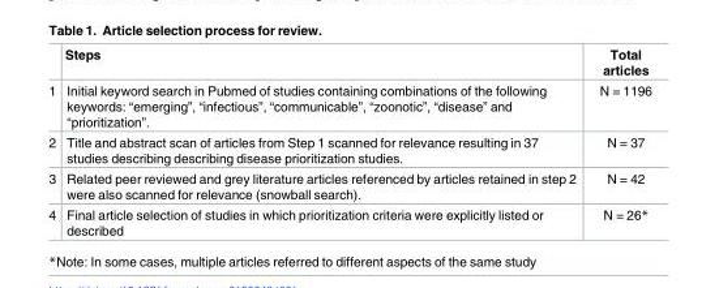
<table><thead><tr><td></td><td>Steps</td><td>Total articles</td></tr></thead><tbody><tr><td>1</td><td>Initial keyword search in Pubmed of studies containing combinations of the following keywords: “emerging”, “infectious”, “communicable”, “zoonotic”, “disease” and “prioritization”.</td><td>N = 1196</td></tr><tr><td>2</td><td>Title and abstract scan of articles from Step 1 scanned for relevance resulting in 37 studies describing describing disease prioritization studies.</td><td>N = 37</td></tr><tr><td>3</td><td>Related peer reviewed and grey literature articles referenced by articles retained in step 2 were also scanned for relevance (snowball search).</td><td>N = 42</td></tr><tr><td>4</td><td>Final article selection of studies in which prioritization criteria were explicitly listed or described</td><td>N = 26*</td></tr></tbody></table>